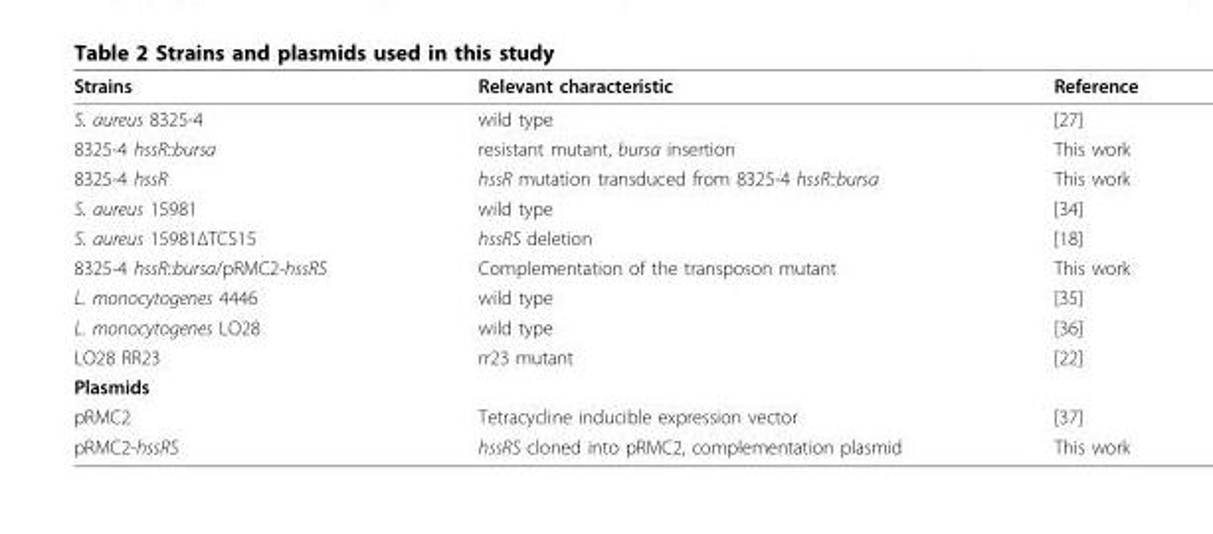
<table><thead><tr><td>Strains</td><td>Relevant characteristic</td><td>Reference</td></tr></thead><tbody><tr><td>S. aureus 8325-4</td><td>wild type</td><td>[27]</td></tr><tr><td>8325-4 hssR::bursa</td><td>resistant mutant, bursa insertion</td><td>This work</td></tr><tr><td>8325-4 hssR</td><td>hssR mutation transduced from 8325-4 hssR::bursa</td><td>This work</td></tr><tr><td>S. aureus 15981</td><td>wild type</td><td>[34]</td></tr><tr><td>S. aureus 15981ΔTCS15</td><td>hssRS deletion</td><td>[18]</td></tr><tr><td>8325-4 hssR::bursa/pRMC2-hssRS</td><td>Complementation of the transposon mutant</td><td>This work</td></tr><tr><td>L. monocytogenes 4446</td><td>wild type</td><td>[35]</td></tr><tr><td>L. monocytogenes LO28</td><td>wild type</td><td>[36]</td></tr><tr><td>LO28 RR23</td><td>rr23 mutant</td><td>[22]</td></tr><tr><td colspan="3">Plasmids</td></tr><tr><td>pRMC2</td><td>Tetracycline inducible expression vector</td><td>[37]</td></tr><tr><td>pRMC2-hssRS</td><td>hssRS cloned into pRMC2, complementation plasmid</td><td>This work</td></tr></tbody></table>